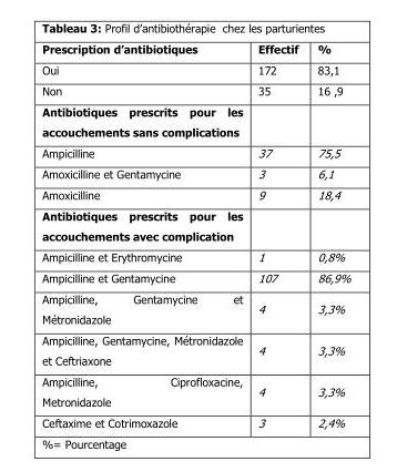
<table><thead><tr><td>Prescription d’antibiotiques</td><td>Effectif</td><td>%</td></tr></thead><tbody><tr><td>Oui</td><td>172</td><td>83,1</td></tr><tr><td>Non</td><td>35</td><td>16 ,9</td></tr><tr><td colspan="3">Antibiotiques prescrits pour les accouchements sans complications</td></tr><tr><td>Ampicilline</td><td>37</td><td>75,5</td></tr><tr><td>Amoxicilline et Gentamycine</td><td>3</td><td>6,1</td></tr><tr><td>Amoxicilline</td><td>9</td><td>18,4</td></tr><tr><td colspan="3">Antibiotiques prescrits pour les accouchements avec complication</td></tr><tr><td>Ampicilline et Erythromycine</td><td>1</td><td>0,8%</td></tr><tr><td>Ampicilline et Gentamycine</td><td>107</td><td>86,9%</td></tr><tr><td>Ampicilline, Gentamycine et Métronidazole</td><td>4</td><td>3,3%</td></tr><tr><td>Ampicilline, Gentamycine, Métronidazole et Ceftriaxone</td><td>4</td><td>3,3%</td></tr><tr><td>Ampicilline, Ciprofloxacine, Metronidazole</td><td>4</td><td>3,3%</td></tr><tr><td>Ceftaxime et Cotrimoxazole</td><td>3</td><td>2,4%</td></tr></tbody></table>